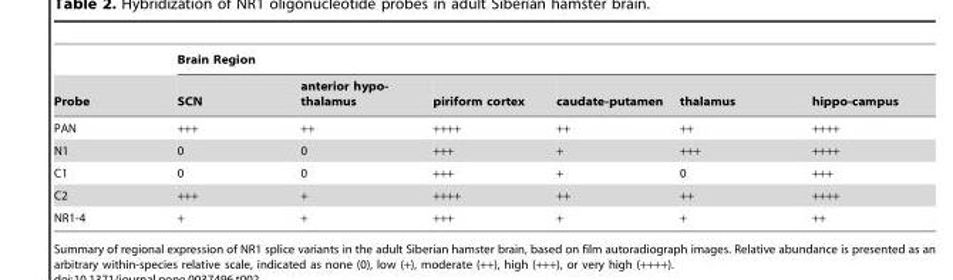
<table><thead><tr><td rowspan="2">Probe</td><td colspan="6">Brain Region</td></tr><tr><td>SCN</td><td>anterior hypo- thalamus</td><td>piriform cortex</td><td>caudate-putamen</td><td>thalamus</td><td>hippo-campus</td></tr></thead><tbody><tr><td>PAN</td><td>+++</td><td>++</td><td>++++</td><td>++</td><td>++</td><td>++++</td></tr><tr><td>N1</td><td>0</td><td>0</td><td>+++</td><td>+</td><td>+++</td><td>++++</td></tr><tr><td>C1</td><td>0</td><td>0</td><td>+++</td><td>+</td><td>0</td><td>+++</td></tr><tr><td>C2</td><td>+++</td><td>+</td><td>++++</td><td>++</td><td>++</td><td>++++</td></tr><tr><td>NR1-4</td><td>+</td><td>+</td><td>+++</td><td>+</td><td>+</td><td>++</td></tr></tbody></table>